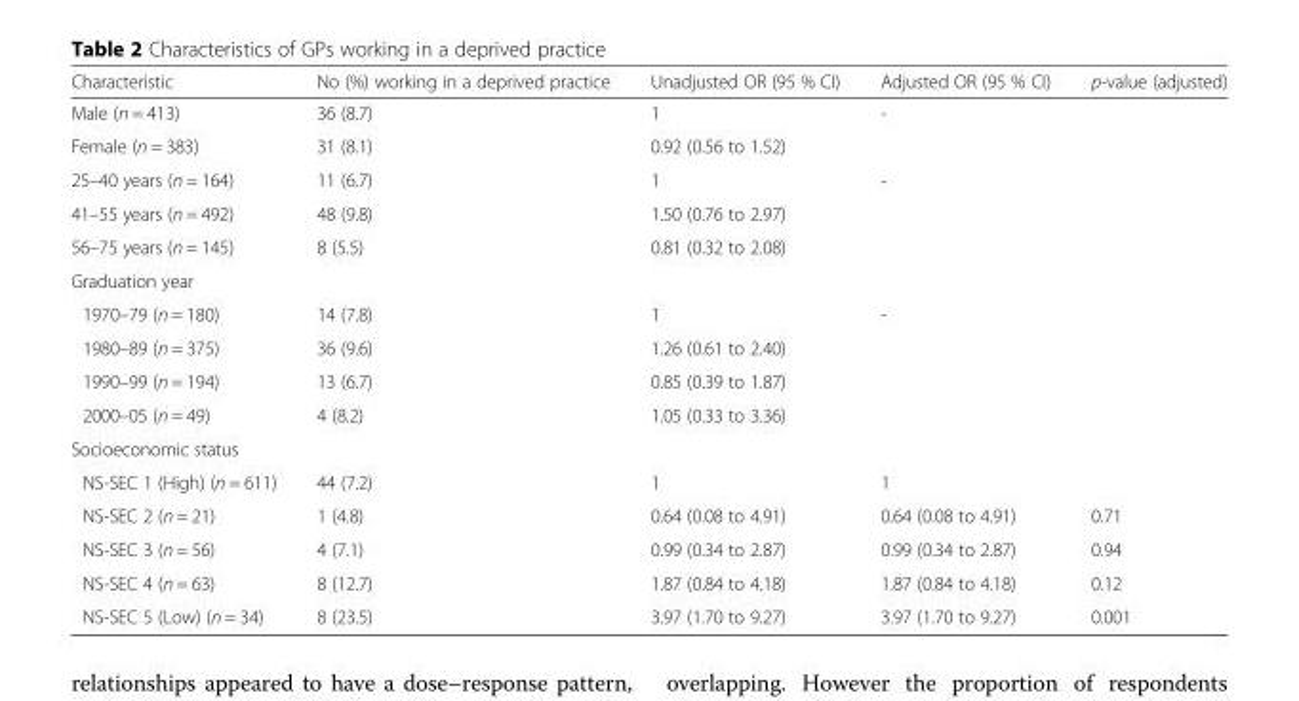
<table><thead><tr><td>Characteristic</td><td>No (%) working in a deprived practice</td><td>Unadjusted OR (95 % CI)</td><td>Adjusted OR (95 % CI)</td><td>p-value (adjusted)</td></tr></thead><tbody><tr><td>Male (n = 413)</td><td>36 (8.7)</td><td>1</td><td>-</td><td></td></tr><tr><td>Female (n = 383)</td><td>31 (8.1)</td><td>0.92 (0.56 to 1.52)</td><td></td><td></td></tr><tr><td>25–40 years (n = 164)</td><td>11 (6.7)</td><td>1</td><td>-</td><td></td></tr><tr><td>41–55 years (n = 492)</td><td>48 (9.8)</td><td>1.50 (0.76 to 2.97)</td><td></td><td></td></tr><tr><td>56–75 years (n = 145)</td><td>8 (5.5)</td><td>0.81 (0.32 to 2.08)</td><td></td><td></td></tr><tr><td colspan="5">Graduation year</td></tr><tr><td>1970–79 (n = 180)</td><td>14 (7.8)</td><td>1</td><td>-</td><td></td></tr><tr><td>1980–89 (n = 375)</td><td>36 (9.6)</td><td>1.26 (0.61 to 2.40)</td><td></td><td></td></tr><tr><td>1990–99 (n = 194)</td><td>13 (6.7)</td><td>0.85 (0.39 to 1.87)</td><td></td><td></td></tr><tr><td>2000–05 (n = 49)</td><td>4 (8.2)</td><td>1.05 (0.33 to 3.36)</td><td></td><td></td></tr><tr><td colspan="5">Socioeconomic status</td></tr><tr><td>NS-SEC 1 (High) (n = 611)</td><td>44 (7.2)</td><td>1</td><td>1</td><td></td></tr><tr><td>NS-SEC 2 (n = 21)</td><td>1 (4.8)</td><td>0.64 (0.08 to 4.91)</td><td>0.64 (0.08 to 4.91)</td><td>0.71</td></tr><tr><td>NS-SEC 3 (n = 56)</td><td>4 (7.1)</td><td>0.99 (0.34 to 2.87)</td><td>0.99 (0.34 to 2.87)</td><td>0.94</td></tr><tr><td>NS-SEC 4 (n = 63)</td><td>8 (12.7)</td><td>1.87 (0.84 to 4.18)</td><td>1.87 (0.84 to 4.18)</td><td>0.12</td></tr><tr><td>NS-SEC 5 (Low) (n = 34)</td><td>8 (23.5)</td><td>3.97 (1.70 to 9.27)</td><td>3.97 (1.70 to 9.27)</td><td>0.001</td></tr></tbody></table>